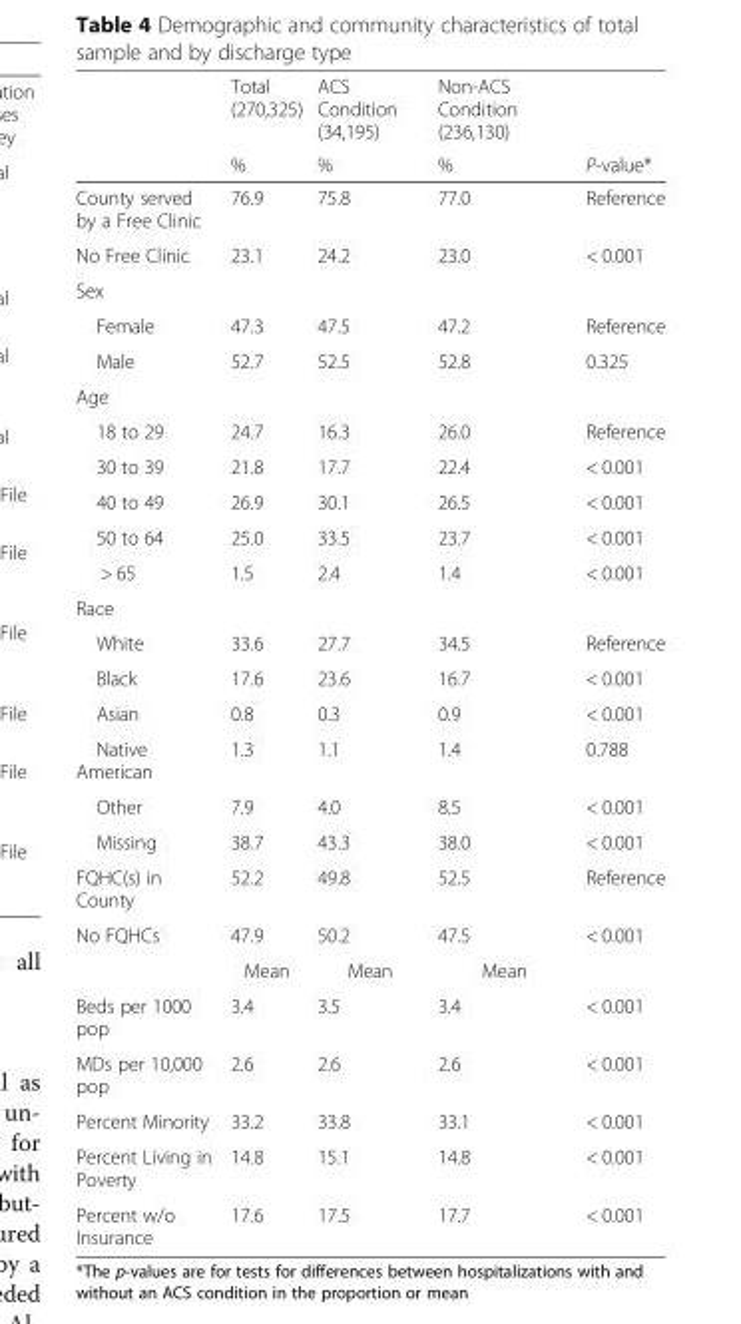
<table><thead><tr><td rowspan="2"></td><td rowspan="2">Total (270,325) %</td><td rowspan="2">ACS Condition (34,195) %</td><td rowspan="2">Non-ACS Condition (236,130) %</td><td rowspan="2">P-value*</td></tr><tr></tr></thead><tbody><tr><td>County served by a Free Clinic</td><td>76.9</td><td>75.8</td><td>77.0</td><td>Reference</td></tr><tr><td>No Free Clinic</td><td>23.1</td><td>24.2</td><td>23.0</td><td>&lt; 0.001</td></tr><tr><td colspan="5">Sex</td></tr><tr><td>Female</td><td>47.3</td><td>47.5</td><td>47.2</td><td>Reference</td></tr><tr><td>Male</td><td>52.7</td><td>52.5</td><td>52.8</td><td>0.325</td></tr><tr><td colspan="5">Age</td></tr><tr><td>18 to 29</td><td>24.7</td><td>16.3</td><td>26.0</td><td>Reference</td></tr><tr><td>30 to 39</td><td>21.8</td><td>17.7</td><td>22.4</td><td>&lt; 0.001</td></tr><tr><td>40 to 49</td><td>26.9</td><td>30.1</td><td>26.5</td><td>&lt; 0.001</td></tr><tr><td>50 to 64</td><td>25.0</td><td>33.5</td><td>23.7</td><td>&lt; 0.001</td></tr><tr><td>&gt; 65</td><td>1.5</td><td>2.4</td><td>1.4</td><td>&lt; 0.001</td></tr><tr><td colspan="5">Race</td></tr><tr><td>White</td><td>33.6</td><td>27.7</td><td>34.5</td><td>Reference</td></tr><tr><td>Black</td><td>17.6</td><td>23.6</td><td>16.7</td><td>&lt; 0.001</td></tr><tr><td>Asian</td><td>0.8</td><td>0.3</td><td>0.9</td><td>&lt; 0.001</td></tr><tr><td>Native American</td><td>1.3</td><td>1.1</td><td>1.4</td><td>0.788</td></tr><tr><td>Other</td><td>7.9</td><td>4.0</td><td>8.5</td><td>&lt; 0.001</td></tr><tr><td>Missing</td><td>38.7</td><td>43.3</td><td>38.0</td><td>&lt; 0.001</td></tr><tr><td>FQHC(s) in County</td><td>52.2</td><td>49.8</td><td>52.5</td><td>Reference</td></tr><tr><td rowspan="2">No FQHCs</td><td>47.9</td><td>50.2</td><td>47.5</td><td>&lt; 0.001</td></tr><tr><td>Mean</td><td>Mean</td><td>Mean</td><td></td></tr><tr><td>Beds per 1000 pop</td><td>3.4</td><td>3.5</td><td>3.4</td><td>&lt; 0.001</td></tr><tr><td>MDs per 10,000 pop</td><td>2.6</td><td>2.6</td><td>2.6</td><td>&lt; 0.001</td></tr><tr><td>Percent Minority</td><td>33.2</td><td>33.8</td><td>33.1</td><td>&lt; 0.001</td></tr><tr><td>Percent Living in Poverty</td><td>14.8</td><td>15.1</td><td>14.8</td><td>&lt; 0.001</td></tr><tr><td>Percent w/o Insurance</td><td>17.6</td><td>17.5</td><td>17.7</td><td>&lt; 0.001</td></tr></tbody></table>